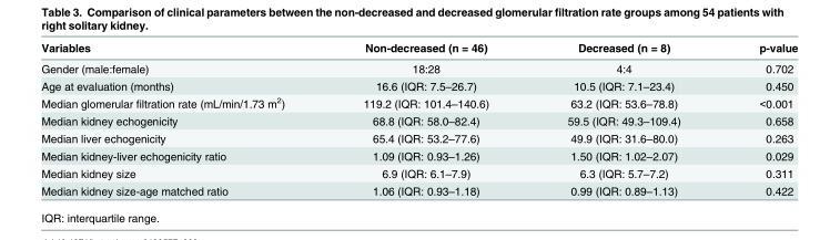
<table><thead><tr><td>Variables</td><td>Non-decreased (n = 46)</td><td>Decreased (n = 8)</td><td>p-value</td></tr></thead><tbody><tr><td>Gender (male:female)</td><td>18:28</td><td>4:4</td><td>0.702</td></tr><tr><td>Age at evaluation (months)</td><td>16.6 (IQR: 7.5–26.7)</td><td>10.5 (IQR: 7.1–23.4)</td><td>0.450</td></tr><tr><td>Median glomerular filtration rate (mL/min/1.73 m<sup>2</sup>)</td><td>119.2 (IQR: 101.4–140.6)</td><td>63.2 (IQR: 53.6–78.8)</td><td>&lt;0.001</td></tr><tr><td>Median kidney echogenicity</td><td>68.8 (IQR: 58.0–82.4)</td><td>59.5 (IQR: 49.3–109.4)</td><td>0.658</td></tr><tr><td>Median liver echogenicity</td><td>65.4 (IQR: 53.2–77.6)</td><td>49.9 (IQR: 31.6–80.0)</td><td>0.263</td></tr><tr><td>Median kidney-liver echogenicity ratio</td><td>1.09 (IQR: 0.93–1.26)</td><td>1.50 (IQR: 1.02–2.07)</td><td>0.029</td></tr><tr><td>Median kidney size</td><td>6.9 (IQR: 6.1–7.9)</td><td>6.3 (IQR: 5.7–7.2)</td><td>0.311</td></tr><tr><td>Median kidney size-age matched ratio</td><td>1.06 (IQR: 0.93–1.18)</td><td>0.99 (IQR: 0.89–1.13)</td><td>0.422</td></tr></tbody></table>